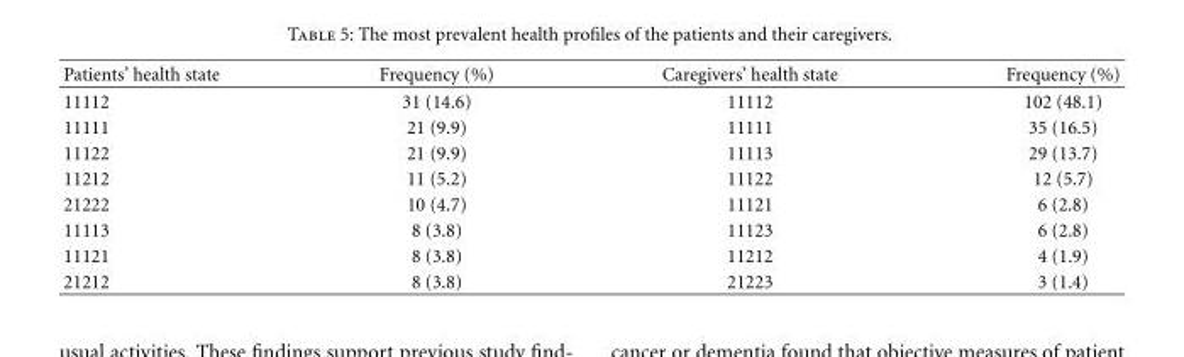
<table><thead><tr><td>Patients’ health state</td><td>Frequency (%)</td><td>Caregivers’ health state</td><td>Frequency (%)</td></tr></thead><tbody><tr><td>11112</td><td>31 (14.6)</td><td>11112</td><td>102 (48.1)</td></tr><tr><td>11111</td><td>21 (9.9)</td><td>11111</td><td>35 (16.5)</td></tr><tr><td>11122</td><td>21 (9.9)</td><td>11113</td><td>29 (13.7)</td></tr><tr><td>11212</td><td>11 (5.2)</td><td>11122</td><td>12 (5.7)</td></tr><tr><td>21222</td><td>10 (4.7)</td><td>11121</td><td>6 (2.8)</td></tr><tr><td>11113</td><td>8 (3.8)</td><td>11123</td><td>6 (2.8)</td></tr><tr><td>11121</td><td>8 (3.8)</td><td>11212</td><td>4 (1.9)</td></tr><tr><td>21212</td><td>8 (3.8)</td><td>21223</td><td>3 (1.4)</td></tr></tbody></table>